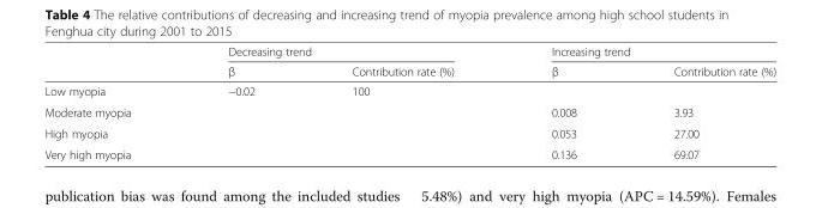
<table><thead><tr><td rowspan="2"></td><td colspan="2">Decreasing trend</td><td colspan="2">Increasing trend</td></tr><tr><td>β</td><td>Contribution rate (%)</td><td>β</td><td>Contribution rate (%)</td></tr></thead><tbody><tr><td>Low myopia</td><td>−0.02</td><td>100</td><td></td><td></td></tr><tr><td>Moderate myopia</td><td></td><td></td><td>0.008</td><td>3.93</td></tr><tr><td>High myopia</td><td></td><td></td><td>0.053</td><td>27.00</td></tr><tr><td>Very high myopia</td><td></td><td></td><td>0.136</td><td>69.07</td></tr></tbody></table>